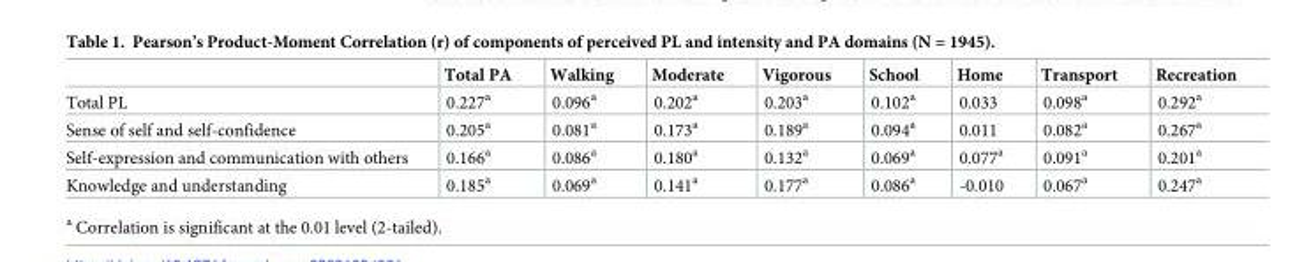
<table><thead><tr><td></td><td>Total PA</td><td>Walking</td><td>Moderate</td><td>Vigorous</td><td>School</td><td>Home</td><td>Transport</td><td>Recreation</td></tr></thead><tbody><tr><td>Total PL</td><td>0.227<sup>a</sup></td><td>0.096<sup>a</sup></td><td>0.202<sup>a</sup></td><td>0.203<sup>a</sup></td><td>0.102<sup>a</sup></td><td>0.033</td><td>0.098<sup>a</sup></td><td>0.292<sup>a</sup></td></tr><tr><td>Sense of self and self-confidence</td><td>0.205<sup>a</sup></td><td>0.081<sup>a</sup></td><td>0.173<sup>a</sup></td><td>0.189<sup>a</sup></td><td>0.094<sup>a</sup></td><td>0.011</td><td>0.082<sup>a</sup></td><td>0.267<sup>a</sup></td></tr><tr><td>Self-expression and communication with others</td><td>0.166<sup>a</sup></td><td>0.086<sup>a</sup></td><td>0.180<sup>a</sup></td><td>0.132<sup>a</sup></td><td>0.069<sup>a</sup></td><td>0.077<sup>a</sup></td><td>0.091<sup>a</sup></td><td>0.201<sup>a</sup></td></tr><tr><td>Knowledge and understanding</td><td>0.185<sup>a</sup></td><td>0.069<sup>a</sup></td><td>0.141<sup>a</sup></td><td>0.177<sup>a</sup></td><td>0.086<sup>a</sup></td><td>-0.010</td><td>0.067<sup>a</sup></td><td>0.247<sup>a</sup></td></tr></tbody></table>